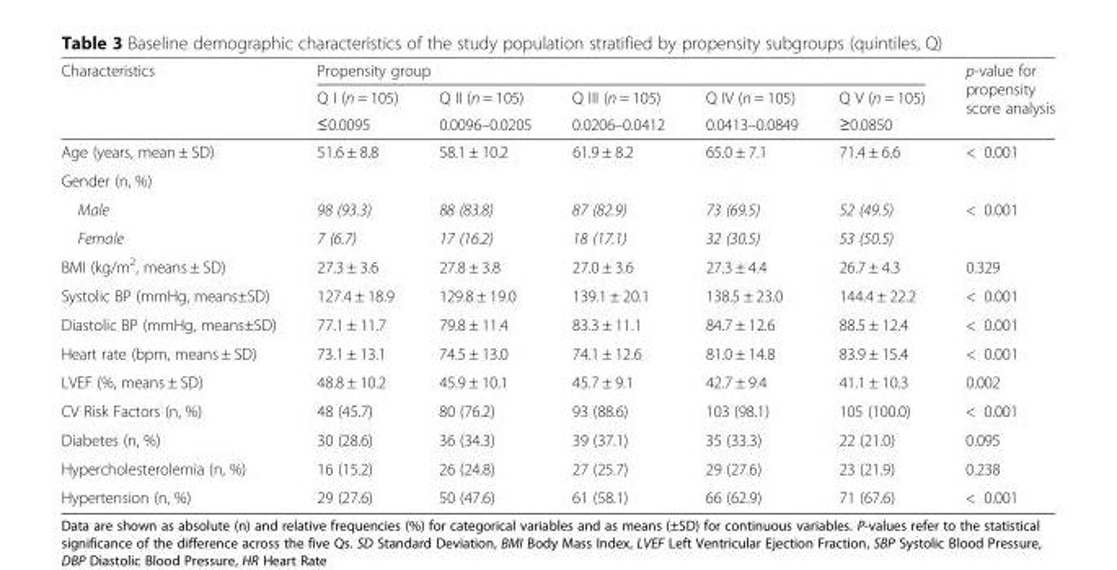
<table><thead><tr><td rowspan="3">Characteristics</td><td colspan="5">Propensity group</td><td rowspan="3">p-value for propensity score analysis</td></tr><tr><td rowspan="2">Q I (n = 105) ≤0.0095</td><td rowspan="2">Q II (n = 105) 0.0096–0.0205</td><td rowspan="2">Q III (n = 105) 0.0206–0.0412</td><td rowspan="2">Q IV (n = 105) 0.0413–0.0849</td><td rowspan="2">Q V (n = 105) ≥0.0850</td></tr><tr></tr></thead><tbody><tr><td>Age (years, mean ± SD)</td><td>51.6 ± 8.8</td><td>58.1 ± 10.2</td><td>61.9 ± 8.2</td><td>65.0 ± 7.1</td><td>71.4 ± 6.6</td><td>&lt; 0.001</td></tr><tr><td colspan="7">Gender (n, %)</td></tr><tr><td>Male</td><td>98 (93.3)</td><td>88 (83.8)</td><td>87 (82.9)</td><td>73 (69.5)</td><td>52 (49.5)</td><td rowspan="2">&lt; 0.001</td></tr><tr><td>Female</td><td>7 (6.7)</td><td>17 (16.2)</td><td>18 (17.1)</td><td>32 (30.5)</td><td>53 (50.5)</td></tr><tr><td>BMI (kg/m<sup>2</sup>, means ± SD)</td><td>27.3 ± 3.6</td><td>27.8 ± 3.8</td><td>27.0 ± 3.6</td><td>27.3 ± 4.4</td><td>26.7 ± 4.3</td><td>0.329</td></tr><tr><td>Systolic BP (mmHg, means±SD)</td><td>127.4 ± 18.9</td><td>129.8 ± 19.0</td><td>139.1 ± 20.1</td><td>138.5 ± 23.0</td><td>144.4 ± 22.2</td><td>&lt; 0.001</td></tr><tr><td>Diastolic BP (mmHg, means±SD)</td><td>77.1 ± 11.7</td><td>79.8 ± 11.4</td><td>83.3 ± 11.1</td><td>84.7 ± 12.6</td><td>88.5 ± 12.4</td><td>&lt; 0.001</td></tr><tr><td>Heart rate (bpm, means ± SD)</td><td>73.1 ± 13.1</td><td>74.5 ± 13.0</td><td>74.1 ± 12.6</td><td>81.0 ± 14.8</td><td>83.9 ± 15.4</td><td>&lt; 0.001</td></tr><tr><td>LVEF (%, means ± SD)</td><td>48.8 ± 10.2</td><td>45.9 ± 10.1</td><td>45.7 ± 9.1</td><td>42.7 ± 9.4</td><td>41.1 ± 10.3</td><td>0.002</td></tr><tr><td>CV Risk Factors (n, %)</td><td>48 (45.7)</td><td>80 (76.2)</td><td>93 (88.6)</td><td>103 (98.1)</td><td>105 (100.0)</td><td>&lt; 0.001</td></tr><tr><td>Diabetes (n, %)</td><td>30 (28.6)</td><td>36 (34.3)</td><td>39 (37.1)</td><td>35 (33.3)</td><td>22 (21.0)</td><td>0.095</td></tr><tr><td>Hypercholesterolemia (n, %)</td><td>16 (15.2)</td><td>26 (24.8)</td><td>27 (25.7)</td><td>29 (27.6)</td><td>23 (21.9)</td><td>0.238</td></tr><tr><td>Hypertension (n, %)</td><td>29 (27.6)</td><td>50 (47.6)</td><td>61 (58.1)</td><td>66 (62.9)</td><td>71 (67.6)</td><td>&lt; 0.001</td></tr></tbody></table>